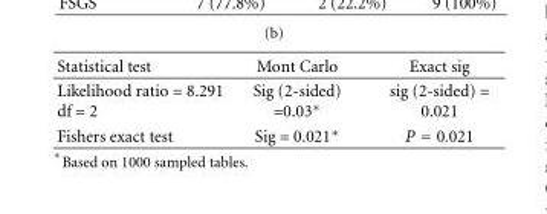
<table><thead><tr><td>Statistical test</td><td>Mont Carlo</td><td>Exact sig</td></tr></thead><tbody><tr><td>Likelihood ratio = 8.291 df = 2</td><td>Sig (2-sided) =0.03∗</td><td>sig (2-sided) = 0.021</td></tr><tr><td>Fishers exact test</td><td>Sig = 0.021∗</td><td>P = 0.021</td></tr></tbody></table>